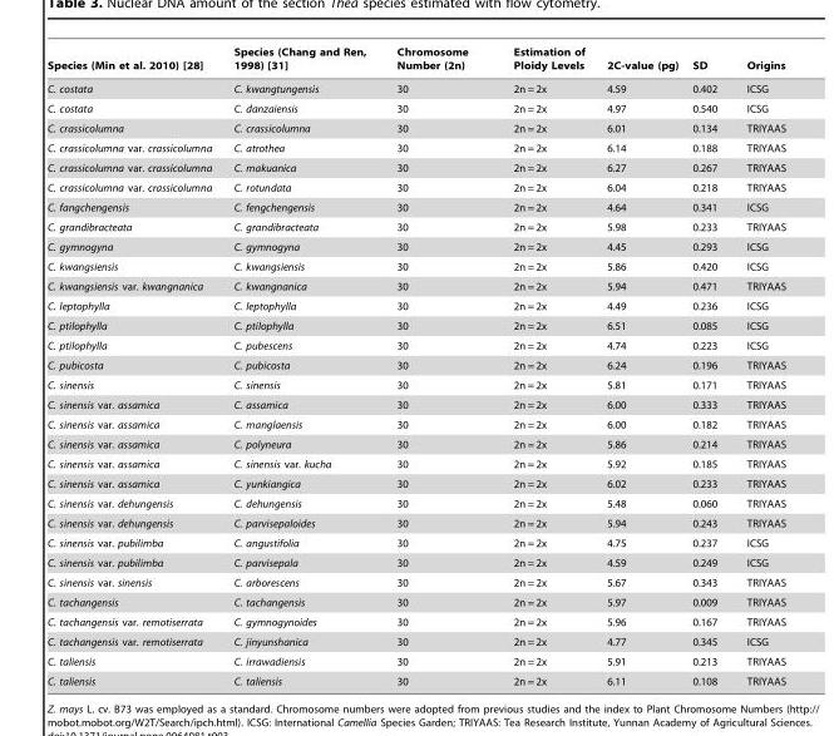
<table><thead><tr><td>Species (Min et al. 2010) [28]</td><td>Species (Chang and Ren, 1998) [31]</td><td>Chromosome Number (2n)</td><td>Estimation of Ploidy Levels</td><td>2C-value (pg)</td><td>SD</td><td>Origins</td></tr></thead><tbody><tr><td>C. costata</td><td>C. kwangtungensis</td><td>30</td><td>2n = 2x</td><td>4.59</td><td>0.402</td><td>ICSG</td></tr><tr><td>C. costata</td><td>C. danzaiensis</td><td>30</td><td>2n = 2x</td><td>4.97</td><td>0.540</td><td>ICSG</td></tr><tr><td>C. crassicolumna</td><td>C. crassicolumna</td><td>30</td><td>2n = 2x</td><td>6.01</td><td>0.134</td><td>TRIYAAS</td></tr><tr><td>C. crassicolumna var. crassicolumna</td><td>C. atrothea</td><td>30</td><td>2n = 2x</td><td>6.14</td><td>0.188</td><td>TRIYAAS</td></tr><tr><td>C. crassicolumna var. crassicolumna</td><td>C. makuanica</td><td>30</td><td>2n = 2x</td><td>6.27</td><td>0.267</td><td>TRIYAAS</td></tr><tr><td>C. crassicolumna var. crassicolumna</td><td>C. rotundata</td><td>30</td><td>2n = 2x</td><td>6.04</td><td>0.218</td><td>TRIYAAS</td></tr><tr><td>C. fangchengensis</td><td>C. fengchengensis</td><td>30</td><td>2n = 2x</td><td>4.64</td><td>0.341</td><td>ICSG</td></tr><tr><td>C. grandibracteata</td><td>C. grandibracteata</td><td>30</td><td>2n = 2x</td><td>5.98</td><td>0.233</td><td>TRIYAAS</td></tr><tr><td>C. gymnogyna</td><td>C. gymnogyna</td><td>30</td><td>2n = 2x</td><td>4.45</td><td>0.293</td><td>ICSG</td></tr><tr><td>C. kwangsiensis</td><td>C. kwangsiensis</td><td>30</td><td>2n = 2x</td><td>5.86</td><td>0.420</td><td>ICSG</td></tr><tr><td>C. kwangsiensis var. kwangnanica</td><td>C. kwangnanica</td><td>30</td><td>2n = 2x</td><td>5.94</td><td>0.471</td><td>TRIYAAS</td></tr><tr><td>C. leptophylla</td><td>C. leptophylla</td><td>30</td><td>2n = 2x</td><td>4.49</td><td>0.236</td><td>ICSG</td></tr><tr><td>C. ptilophylla</td><td>C. ptilophylla</td><td>30</td><td>2n = 2x</td><td>6.51</td><td>0.085</td><td>ICSG</td></tr><tr><td>C. ptilophylla</td><td>C. pubescens</td><td>30</td><td>2n = 2x</td><td>4.74</td><td>0.223</td><td>ICSG</td></tr><tr><td>C. pubicosta</td><td>C. pubicosta</td><td>30</td><td>2n = 2x</td><td>6.24</td><td>0.196</td><td>TRIYAAS</td></tr><tr><td>C. sinensis</td><td>C. sinensis</td><td>30</td><td>2n = 2x</td><td>5.81</td><td>0.171</td><td>TRIYAAS</td></tr><tr><td>C. sinensis var. assamica</td><td>C. assamica</td><td>30</td><td>2n = 2x</td><td>6.00</td><td>0.333</td><td>TRIYAAS</td></tr><tr><td>C. sinensis var. assamica</td><td>C. manglaensis</td><td>30</td><td>2n = 2x</td><td>6.00</td><td>0.182</td><td>TRIYAAS</td></tr><tr><td>C. sinensis var. assamica</td><td>C. polyneura</td><td>30</td><td>2n = 2x</td><td>5.86</td><td>0.214</td><td>TRIYAAS</td></tr><tr><td>C. sinensis var. assamica</td><td>C. sinensis var. kucha</td><td>30</td><td>2n = 2x</td><td>5.92</td><td>0.185</td><td>TRIYAAS</td></tr><tr><td>C. sinensis var. assamica</td><td>C. yunkiangica</td><td>30</td><td>2n = 2x</td><td>6.02</td><td>0.233</td><td>TRIYAAS</td></tr><tr><td>C. sinensis var. dehungensis</td><td>C. dehungensis</td><td>30</td><td>2n = 2x</td><td>5.48</td><td>0.060</td><td>TRIYAAS</td></tr><tr><td>C. sinensis var. dehungensis</td><td>C. parvisepaloides</td><td>30</td><td>2n = 2x</td><td>5.94</td><td>0.243</td><td>TRIYAAS</td></tr><tr><td>C. sinensis var. pubilimba</td><td>C. angustifolia</td><td>30</td><td>2n = 2x</td><td>4.75</td><td>0.237</td><td>ICSG</td></tr><tr><td>C. sinensis var. pubilimba</td><td>C. parvisepala</td><td>30</td><td>2n = 2x</td><td>4.59</td><td>0.249</td><td>ICSG</td></tr><tr><td>C. sinensis var. sinensis</td><td>C. arborescens</td><td>30</td><td>2n = 2x</td><td>5.67</td><td>0.343</td><td>TRIYAAS</td></tr><tr><td>C. tachangensis</td><td>C. tachangensis</td><td>30</td><td>2n = 2x</td><td>5.97</td><td>0.009</td><td>TRIYAAS</td></tr><tr><td>C. tachangensis var. remotiserrata</td><td>C. gymnogynoides</td><td>30</td><td>2n = 2x</td><td>5.96</td><td>0.167</td><td>TRIYAAS</td></tr><tr><td>C. tachangensis var. remotiserrata</td><td>C. jinyunshanica</td><td>30</td><td>2n = 2x</td><td>4.77</td><td>0.345</td><td>ICSG</td></tr><tr><td>C. taliensis</td><td>C. irrawadiensis</td><td>30</td><td>2n = 2x</td><td>5.91</td><td>0.213</td><td>TRIYAAS</td></tr><tr><td>C. taliensis</td><td>C. taliensis</td><td>30</td><td>2n = 2x</td><td>6.11</td><td>0.108</td><td>TRIYAAS</td></tr></tbody></table>